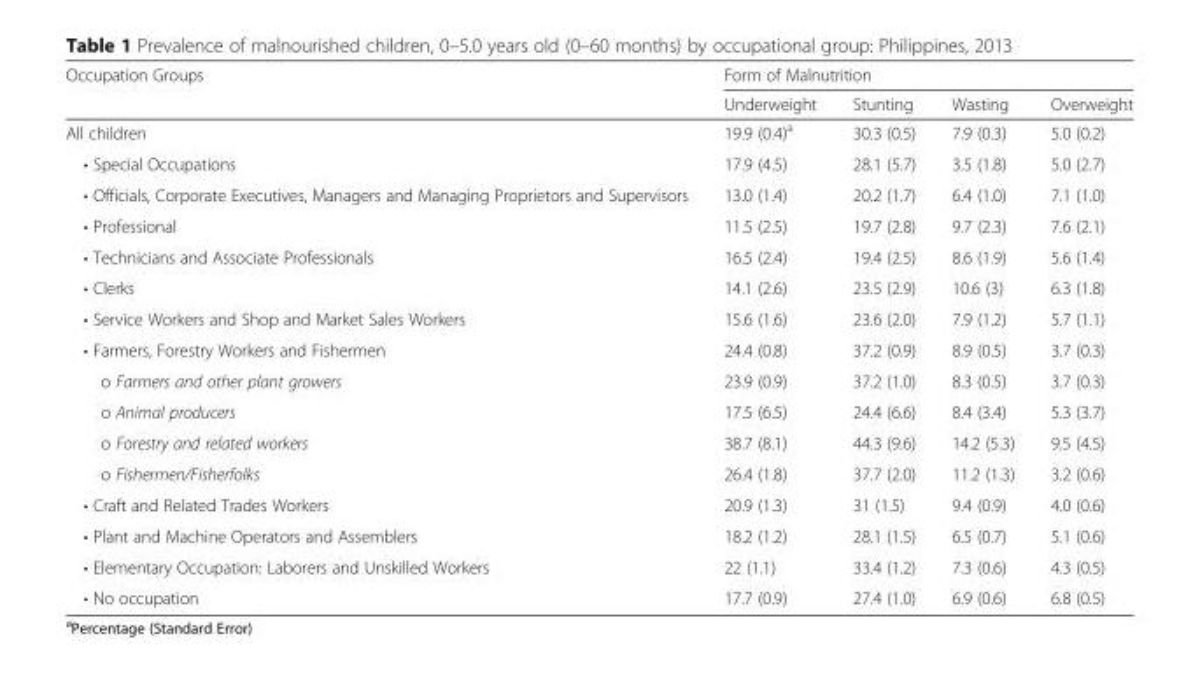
<table><thead><tr><td rowspan="2">Occupation Groups</td><td colspan="4">Form of Malnutrition</td></tr><tr><td>Underweight</td><td>Stunting</td><td>Wasting</td><td>Overweight</td></tr></thead><tbody><tr><td>All children</td><td>19.9 (0.4)<sup>a</sup></td><td>30.3 (0.5)</td><td>7.9 (0.3)</td><td>5.0 (0.2)</td></tr><tr><td>• Special Occupations</td><td>17.9 (4.5)</td><td>28.1 (5.7)</td><td>3.5 (1.8)</td><td>5.0 (2.7)</td></tr><tr><td>• Officials, Corporate Executives, Managers and Managing Proprietors and Supervisors</td><td>13.0 (1.4)</td><td>20.2 (1.7)</td><td>6.4 (1.0)</td><td>7.1 (1.0)</td></tr><tr><td>• Professional</td><td>11.5 (2.5)</td><td>19.7 (2.8)</td><td>9.7 (2.3)</td><td>7.6 (2.1)</td></tr><tr><td>• Technicians and Associate Professionals</td><td>16.5 (2.4)</td><td>19.4 (2.5)</td><td>8.6 (1.9)</td><td>5.6 (1.4)</td></tr><tr><td>• Clerks</td><td>14.1 (2.6)</td><td>23.5 (2.9)</td><td>10.6 (3)</td><td>6.3 (1.8)</td></tr><tr><td>• Service Workers and Shop and Market Sales Workers</td><td>15.6 (1.6)</td><td>23.6 (2.0)</td><td>7.9 (1.2)</td><td>5.7 (1.1)</td></tr><tr><td>• Farmers, Forestry Workers and Fishermen</td><td>24.4 (0.8)</td><td>37.2 (0.9)</td><td>8.9 (0.5)</td><td>3.7 (0.3)</td></tr><tr><td>o Farmers and other plant growers</td><td>23.9 (0.9)</td><td>37.2 (1.0)</td><td>8.3 (0.5)</td><td>3.7 (0.3)</td></tr><tr><td>o Animal producers</td><td>17.5 (6.5)</td><td>24.4 (6.6)</td><td>8.4 (3.4)</td><td>5.3 (3.7)</td></tr><tr><td>o Forestry and related workers</td><td>38.7 (8.1)</td><td>44.3 (9.6)</td><td>14.2 (5.3)</td><td>9.5 (4.5)</td></tr><tr><td>o Fishermen/Fisherfolks</td><td>26.4 (1.8)</td><td>37.7 (2.0)</td><td>11.2 (1.3)</td><td>3.2 (0.6)</td></tr><tr><td>• Craft and Related Trades Workers</td><td>20.9 (1.3)</td><td>31 (1.5)</td><td>9.4 (0.9)</td><td>4.0 (0.6)</td></tr><tr><td>• Plant and Machine Operators and Assemblers</td><td>18.2 (1.2)</td><td>28.1 (1.5)</td><td>6.5 (0.7)</td><td>5.1 (0.6)</td></tr><tr><td>• Elementary Occupation: Laborers and Unskilled Workers</td><td>22 (1.1)</td><td>33.4 (1.2)</td><td>7.3 (0.6)</td><td>4.3 (0.5)</td></tr><tr><td>• No occupation</td><td>17.7 (0.9)</td><td>27.4 (1.0)</td><td>6.9 (0.6)</td><td>6.8 (0.5)</td></tr></tbody></table>